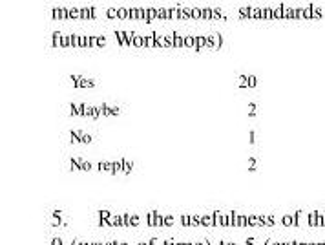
<table><tbody><tr><td>Yes</td><td>20</td></tr><tr><td>Maybe</td><td>2</td></tr><tr><td>No</td><td>1</td></tr><tr><td>No reply</td><td>2</td></tr></tbody></table>